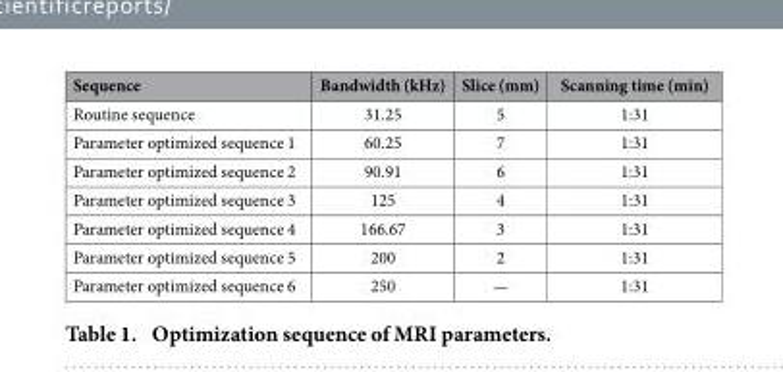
<table><thead><tr><td>Sequence</td><td>Bandwidth (kHz)</td><td>Slice (mm)</td><td>Scanning time (min)</td></tr></thead><tbody><tr><td>Routine sequence</td><td>31.25</td><td>5</td><td>1:31</td></tr><tr><td>Parameter optimized sequence 1</td><td>60.25</td><td>7</td><td>1:31</td></tr><tr><td>Parameter optimized sequence 2</td><td>90.91</td><td>6</td><td>1:31</td></tr><tr><td>Parameter optimized sequence 3</td><td>125</td><td>4</td><td>1:31</td></tr><tr><td>Parameter optimized sequence 4</td><td>166.67</td><td>3</td><td>1:31</td></tr><tr><td>Parameter optimized sequence 5</td><td>200</td><td>2</td><td>1:31</td></tr><tr><td>Parameter optimized sequence 6</td><td>250</td><td>—</td><td>1:31</td></tr></tbody></table>